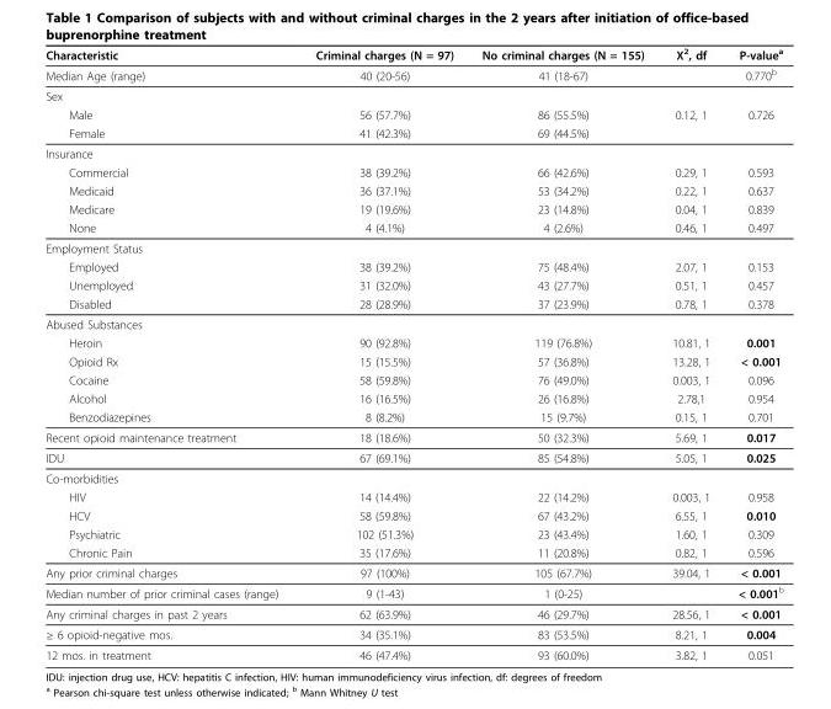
<table><thead><tr><td>Characteristic</td><td>Criminal charges (N = 97)</td><td>No criminal charges (N = 155)</td><td>Χ<sup>2</sup>, df</td><td>P-value<sup>a</sup></td></tr></thead><tbody><tr><td>Median Age (range)</td><td>40 (20-56)</td><td>41 (18-67)</td><td></td><td>0.770<sup>b</sup></td></tr><tr><td colspan="5">Sex</td></tr><tr><td>Male</td><td>56 (57.7%)</td><td>86 (55.5%)</td><td>0.12, 1</td><td>0.726</td></tr><tr><td>Female</td><td>41 (42.3%)</td><td>69 (44.5%)</td><td></td><td></td></tr><tr><td colspan="5">Insurance</td></tr><tr><td>Commercial</td><td>38 (39.2%)</td><td>66 (42.6%)</td><td>0.29, 1</td><td>0.593</td></tr><tr><td>Medicaid</td><td>36 (37.1%)</td><td>53 (34.2%)</td><td>0.22, 1</td><td>0.637</td></tr><tr><td>Medicare</td><td>19 (19.6%)</td><td>23 (14.8%)</td><td>0.04, 1</td><td>0.839</td></tr><tr><td>None</td><td>4 (4.1%)</td><td>4 (2.6%)</td><td>0.46, 1</td><td>0.497</td></tr><tr><td colspan="5">Employment Status</td></tr><tr><td>Employed</td><td>38 (39.2%)</td><td>75 (48.4%)</td><td>2.07, 1</td><td>0.153</td></tr><tr><td>Unemployed</td><td>31 (32.0%)</td><td>43 (27.7%)</td><td>0.51, 1</td><td>0.457</td></tr><tr><td>Disabled</td><td>28 (28.9%)</td><td>37 (23.9%)</td><td>0.78, 1</td><td>0.378</td></tr><tr><td colspan="5">Abused Substances</td></tr><tr><td>Heroin</td><td>90 (92.8%)</td><td>119 (76.8%)</td><td>10.81, 1</td><td>0.001</td></tr><tr><td>Opioid Rx</td><td>15 (15.5%)</td><td>57 (36.8%)</td><td>13.28, 1</td><td>&lt; 0.001</td></tr><tr><td>Cocaine</td><td>58 (59.8%)</td><td>76 (49.0%)</td><td>0.003, 1</td><td>0.096</td></tr><tr><td>Alcohol</td><td>16 (16.5%)</td><td>26 (16.8%)</td><td>2.78,1</td><td>0.954</td></tr><tr><td>Benzodiazepines</td><td>8 (8.2%)</td><td>15 (9.7%)</td><td>0.15, 1</td><td>0.701</td></tr><tr><td>Recent opioid maintenance treatment</td><td>18 (18.6%)</td><td>50 (32.3%)</td><td>5.69, 1</td><td>0.017</td></tr><tr><td>IDU</td><td>67 (69.1%)</td><td>85 (54.8%)</td><td>5.05, 1</td><td>0.025</td></tr><tr><td colspan="5">Co-morbidities</td></tr><tr><td>HIV</td><td>14 (14.4%)</td><td>22 (14.2%)</td><td>0.003, 1</td><td>0.958</td></tr><tr><td>HCV</td><td>58 (59.8%)</td><td>67 (43.2%)</td><td>6.55, 1</td><td>0.010</td></tr><tr><td>Psychiatric</td><td>102 (51.3%)</td><td>23 (43.4%)</td><td>1.60, 1</td><td>0.309</td></tr><tr><td>Chronic Pain</td><td>35 (17.6%)</td><td>11 (20.8%)</td><td>0.82, 1</td><td>0.596</td></tr><tr><td>Any prior criminal charges</td><td>97 (100%)</td><td>105 (67.7%)</td><td>39.04, 1</td><td>&lt; 0.001</td></tr><tr><td>Median number of prior criminal cases (range)</td><td>9 (1-43)</td><td>1 (0-25)</td><td></td><td>&lt; 0.001<sup>b</sup></td></tr><tr><td>Any criminal charges in past 2 years</td><td>62 (63.9%)</td><td>46 (29.7%)</td><td>28.56, 1</td><td>&lt; 0.001</td></tr><tr><td>≥ 6 opioid-negative mos.</td><td>34 (35.1%)</td><td>83 (53.5%)</td><td>8.21, 1</td><td>0.004</td></tr><tr><td>12 mos. in treatment</td><td>46 (47.4%)</td><td>93 (60.0%)</td><td>3.82, 1</td><td>0.051</td></tr></tbody></table>